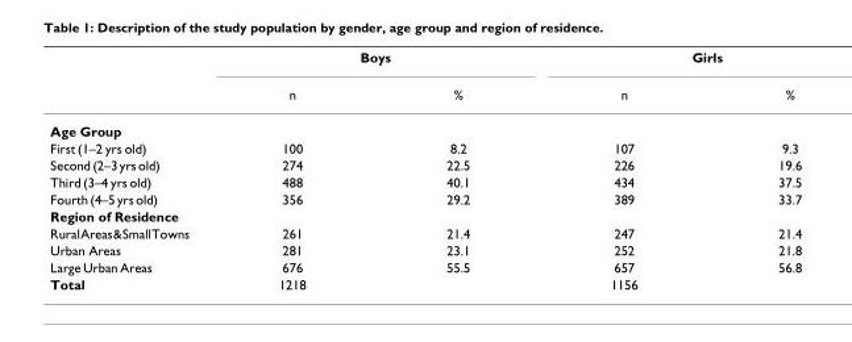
<table><thead><tr><td rowspan="2"></td><td colspan="2">Boys</td><td colspan="2">Girls</td></tr><tr><td>n</td><td>%</td><td>n</td><td>%</td></tr></thead><tbody><tr><td colspan="5">Age Group</td></tr><tr><td>First (1–2 yrs old)</td><td>100</td><td>8.2</td><td>107</td><td>9.3</td></tr><tr><td>Second (2–3 yrs old)</td><td>274</td><td>22.5</td><td>226</td><td>19.6</td></tr><tr><td>Third (3–4 yrs old)</td><td>488</td><td>40.1</td><td>434</td><td>37.5</td></tr><tr><td>Fourth (4–5 yrs old)</td><td>356</td><td>29.2</td><td>389</td><td>33.7</td></tr><tr><td colspan="5">Region of Residence</td></tr><tr><td>Rural Areas &amp; Small Towns</td><td>261</td><td>21.4</td><td>247</td><td>21.4</td></tr><tr><td>Urban Areas</td><td>281</td><td>23.1</td><td>252</td><td>21.8</td></tr><tr><td>Large Urban Areas</td><td>676</td><td>55.5</td><td>657</td><td>56.8</td></tr><tr><td>Total</td><td>1218</td><td></td><td>1156</td><td></td></tr></tbody></table>